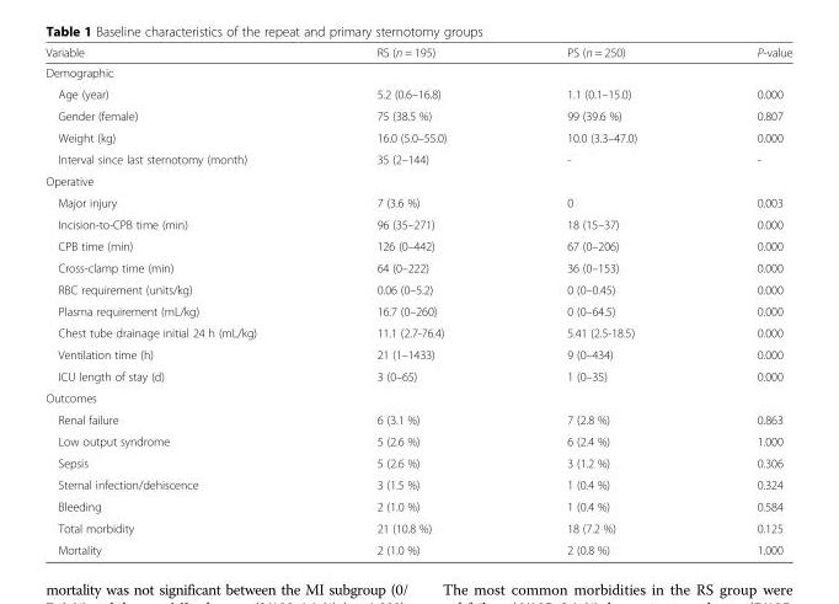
<table><thead><tr><td>Variable</td><td>RS (n = 195)</td><td>PS (n = 250)</td><td>P-value</td></tr></thead><tbody><tr><td colspan="4">Demographic</td></tr><tr><td>Age (year)</td><td>5.2 (0.6–16.8)</td><td>1.1 (0.1–15.0)</td><td>0.000</td></tr><tr><td>Gender (female)</td><td>75 (38.5 %)</td><td>99 (39.6 %)</td><td>0.807</td></tr><tr><td>Weight (kg)</td><td>16.0 (5.0–55.0)</td><td>10.0 (3.3–47.0)</td><td>0.000</td></tr><tr><td>Interval since last sternotomy (month)</td><td>35 (2–144)</td><td>-</td><td>-</td></tr><tr><td colspan="4">Operative</td></tr><tr><td>Major injury</td><td>7 (3.6 %)</td><td>0</td><td>0.003</td></tr><tr><td>Incision-to-CPB time (min)</td><td>96 (35–271)</td><td>18 (15–37)</td><td>0.000</td></tr><tr><td>CPB time (min)</td><td>126 (0–442)</td><td>67 (0–206)</td><td>0.000</td></tr><tr><td>Cross-clamp time (min)</td><td>64 (0–222)</td><td>36 (0–153)</td><td>0.000</td></tr><tr><td>RBC requirement (units/kg)</td><td>0.06 (0–5.2)</td><td>0 (0–0.45)</td><td>0.000</td></tr><tr><td>Plasma requirement (mL/kg)</td><td>16.7 (0–260)</td><td>0 (0–64.5)</td><td>0.000</td></tr><tr><td>Chest tube drainage initial 24 h (mL/kg)</td><td>11.1 (2.7-76.4)</td><td>5.41 (2.5-18.5)</td><td>0.000</td></tr><tr><td>Ventilation time (h)</td><td>21 (1–1433)</td><td>9 (0–434)</td><td>0.000</td></tr><tr><td>ICU length of stay (d)</td><td>3 (0–65)</td><td>1 (0–35)</td><td>0.000</td></tr><tr><td colspan="4">Outcomes</td></tr><tr><td>Renal failure</td><td>6 (3.1 %)</td><td>7 (2.8 %)</td><td>0.863</td></tr><tr><td>Low output syndrome</td><td>5 (2.6 %)</td><td>6 (2.4 %)</td><td>1.000</td></tr><tr><td>Sepsis</td><td>5 (2.6 %)</td><td>3 (1.2 %)</td><td>0.306</td></tr><tr><td>Sternal infection/dehiscence</td><td>3 (1.5 %)</td><td>1 (0.4 %)</td><td>0.324</td></tr><tr><td>Bleeding</td><td>2 (1.0 %)</td><td>1 (0.4 %)</td><td>0.584</td></tr><tr><td>Total morbidity</td><td>21 (10.8 %)</td><td>18 (7.2 %)</td><td>0.125</td></tr><tr><td>Mortality</td><td>2 (1.0 %)</td><td>2 (0.8 %)</td><td>1.000</td></tr></tbody></table>